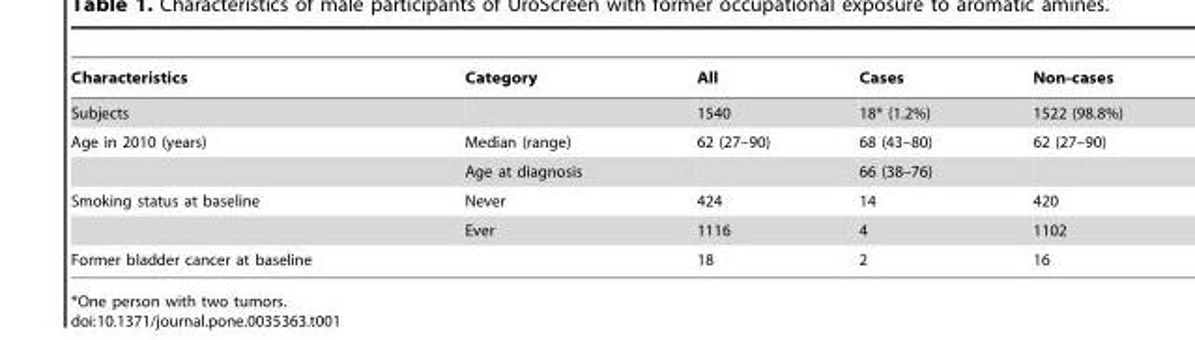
<table><thead><tr><td>Characteristics</td><td>Category</td><td>All</td><td>Cases</td><td>Non-cases</td></tr></thead><tbody><tr><td>Subjects</td><td></td><td>1540</td><td>18* (1.2%)</td><td>1522 (98.8%)</td></tr><tr><td rowspan="2">Age in 2010 (years)</td><td>Median (range)</td><td>62 (27–90)</td><td>68 (43–80)</td><td>62 (27–90)</td></tr><tr><td>Age at diagnosis</td><td></td><td>66 (38–76)</td><td></td></tr><tr><td rowspan="2">Smoking status at baseline</td><td>Never</td><td>424</td><td>14</td><td>420</td></tr><tr><td>Ever</td><td>1116</td><td>4</td><td>1102</td></tr><tr><td>Former bladder cancer at baseline</td><td></td><td>18</td><td>2</td><td>16</td></tr></tbody></table>